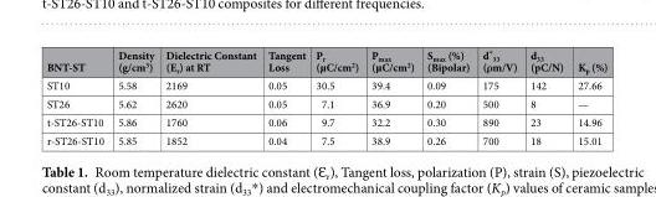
<table><thead><tr><td>BNT-ST</td><td>Density (g/cm<sup>3</sup>)</td><td>Dielectric Constant (E<sub>r</sub>) at RT</td><td>Tangent Loss</td><td>P<sub>r</sub> (µC/cm<sup>2</sup>)</td><td>P<sub>max</sub> (µC/cm<sup>2</sup>)</td><td>S<sub>max</sub> (%) (Bipolar)</td><td>d* <sub>33</sub> (ρm/V)</td><td>d<sub>33</sub> (pC/N)</td><td>K<sub>p</sub> (%)</td></tr></thead><tbody><tr><td>ST10</td><td>5.58</td><td>2169</td><td>0.05</td><td>30.5</td><td>39.4</td><td>0.09</td><td>175</td><td>142</td><td>27.66</td></tr><tr><td>ST26</td><td>5.62</td><td>2620</td><td>0.05</td><td>7.1</td><td>36.9</td><td>0.20</td><td>500</td><td>8</td><td>—</td></tr><tr><td>t-ST26-ST10</td><td>5.86</td><td>1760</td><td>0.06</td><td>9.7</td><td>32.2</td><td>0.30</td><td>890</td><td>23</td><td>14.96</td></tr><tr><td>r-ST26-ST10</td><td>5.85</td><td>1852</td><td>0.04</td><td>7.5</td><td>38.9</td><td>0.26</td><td>700</td><td>18</td><td>15.01</td></tr></tbody></table>